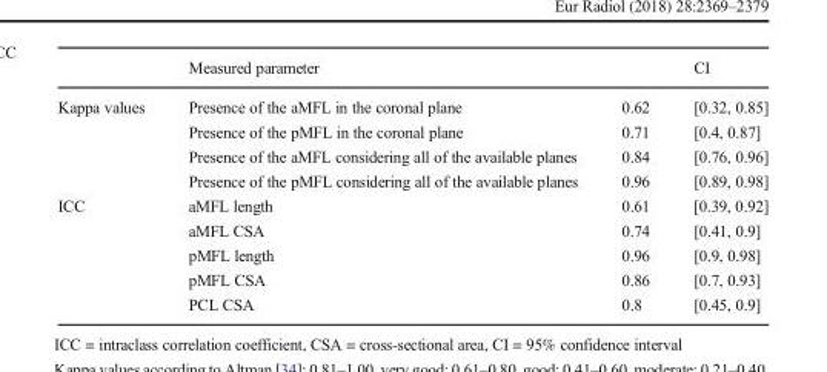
<table><thead><tr><td></td><td>Measured parameter</td><td></td><td>CI</td></tr></thead><tbody><tr><td rowspan="4">Kappa values</td><td>Presence of the aMFL in the coronal plane</td><td>0.62</td><td>[0.32, 0.85]</td></tr><tr><td>Presence of the pMFL in the coronal plane</td><td>0.71</td><td>[0.4, 0.87]</td></tr><tr><td>Presence of the aMFL considering all of the available planes</td><td>0.84</td><td>[0.76, 0.96]</td></tr><tr><td>Presence of the pMFL considering all of the available planes</td><td>0.96</td><td>[0.89, 0.98]</td></tr><tr><td rowspan="5">ICC</td><td>aMFL length</td><td>0.61</td><td>[0.39, 0.92]</td></tr><tr><td>aMFL CSA</td><td>0.74</td><td>[0.41, 0.9]</td></tr><tr><td>pMFL length</td><td>0.96</td><td>[0.9, 0.98]</td></tr><tr><td>pMFL CSA</td><td>0.86</td><td>[0.7, 0.93]</td></tr><tr><td>PCL CSA</td><td>0.8</td><td>[0.45, 0.9]</td></tr></tbody></table>